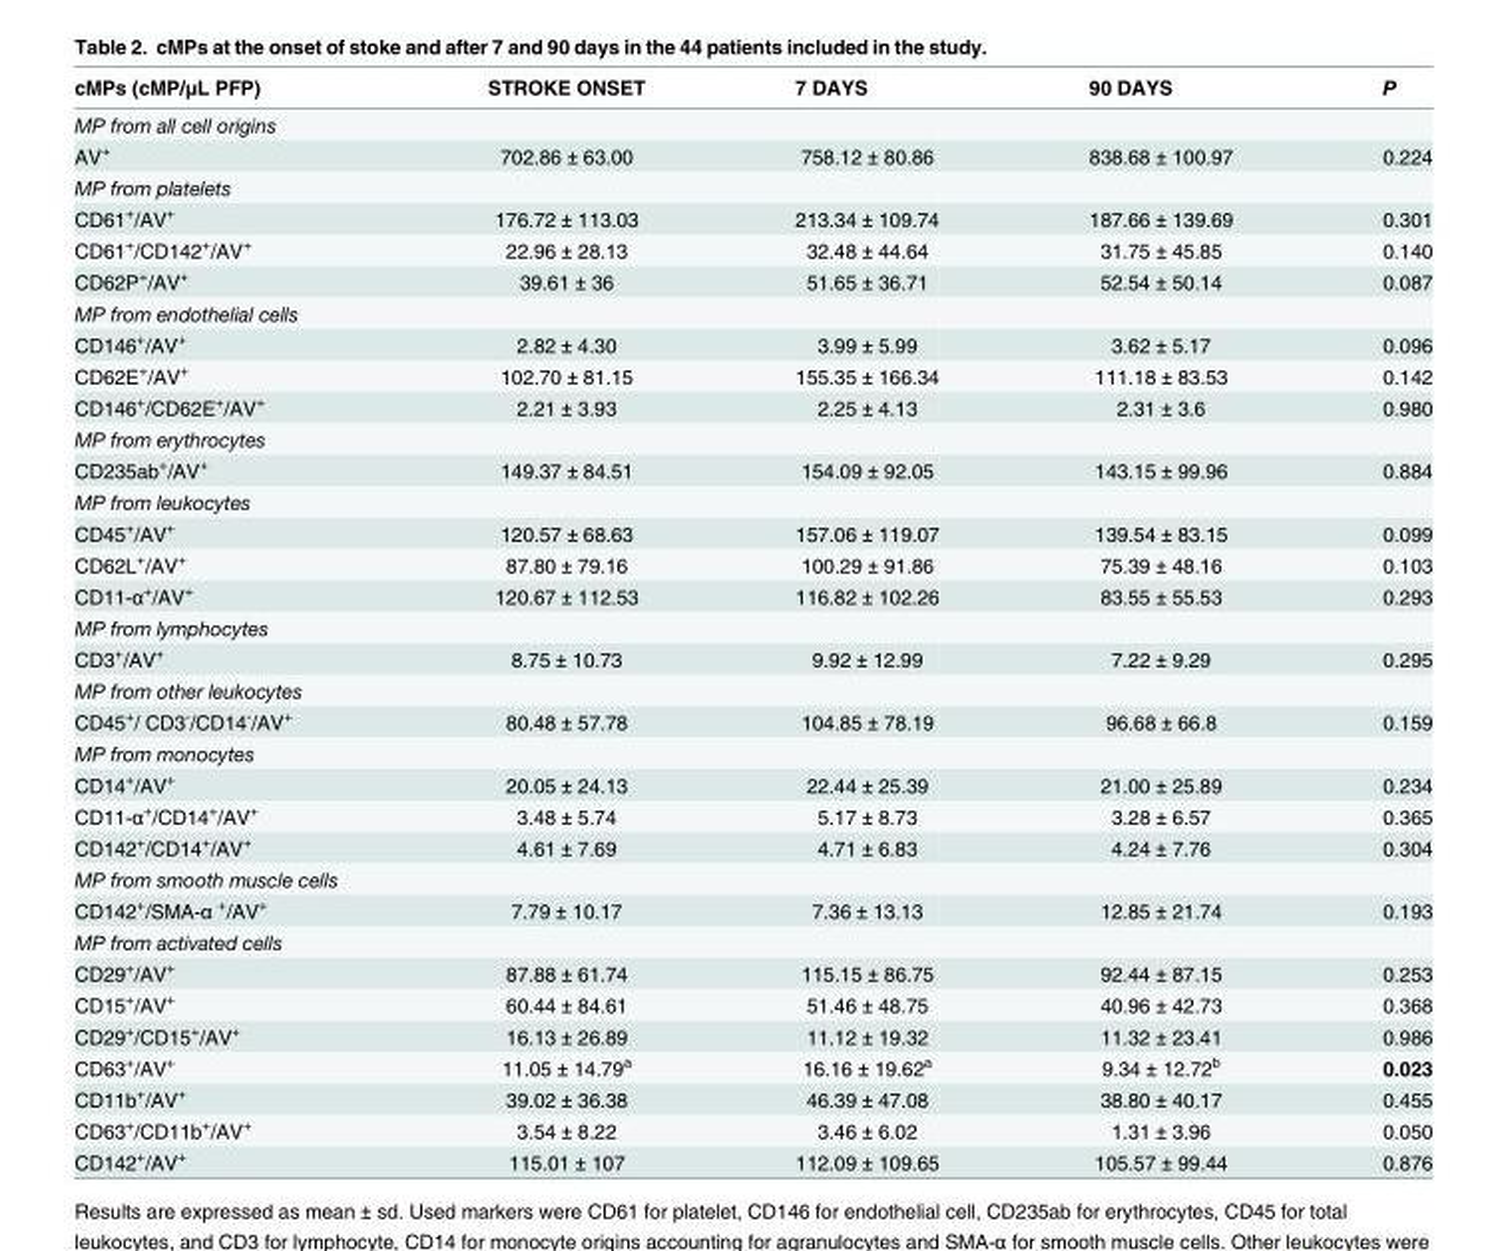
<table><thead><tr><td>cMPs (cMP/μL PFP)</td><td>STROKE ONSET</td><td>7 DAYS</td><td>90 DAYS</td><td>P</td></tr></thead><tbody><tr><td colspan="5">MP from all cell origins</td></tr><tr><td>AV<sup>+</sup></td><td>702.86 ± 63.00</td><td>758.12 ± 80.86</td><td>838.68 ± 100.97</td><td>0.224</td></tr><tr><td colspan="5">MP from platelets</td></tr><tr><td>CD61<sup>+</sup>/AV<sup>+</sup></td><td>176.72 ± 113.03</td><td>213.34 ± 109.74</td><td>187.66 ± 139.69</td><td>0.301</td></tr><tr><td>CD61<sup>+</sup>/CD142<sup>+</sup>/AV<sup>+</sup></td><td>22.96 ± 28.13</td><td>32.48 ± 44.64</td><td>31.75 ± 45.85</td><td>0.140</td></tr><tr><td>CD62P<sup>+</sup>/AV<sup>+</sup></td><td>39.61 ± 36</td><td>51.65 ± 36.71</td><td>52.54 ± 50.14</td><td>0.087</td></tr><tr><td colspan="5">MP from endothelial cells</td></tr><tr><td>CD146<sup>+</sup>/AV<sup>+</sup></td><td>2.82 ± 4.30</td><td>3.99 ± 5.99</td><td>3.62 ± 5.17</td><td>0.096</td></tr><tr><td>CD62E<sup>+</sup>/AV<sup>+</sup></td><td>102.70 ± 81.15</td><td>155.35 ± 166.34</td><td>111.18 ± 83.53</td><td>0.142</td></tr><tr><td>CD146<sup>+</sup>/CD62E<sup>+</sup>/AV<sup>+</sup></td><td>2.21 ± 3.93</td><td>2.25 ± 4.13</td><td>2.31 ± 3.6</td><td>0.980</td></tr><tr><td colspan="5">MP from erythrocytes</td></tr><tr><td>CD235ab<sup>+</sup>/AV<sup>+</sup></td><td>149.37 ± 84.51</td><td>154.09 ± 92.05</td><td>143.15 ± 99.96</td><td>0.884</td></tr><tr><td colspan="5">MP from leukocytes</td></tr><tr><td>CD45<sup>+</sup>/AV<sup>+</sup></td><td>120.57 ± 68.63</td><td>157.06 ± 119.07</td><td>139.54 ± 83.15</td><td>0.099</td></tr><tr><td>CD62L<sup>+</sup>/AV<sup>+</sup></td><td>87.80 ± 79.16</td><td>100.29 ± 91.86</td><td>75.39 ± 48.16</td><td>0.103</td></tr><tr><td>CD11-α<sup>+</sup>/AV<sup>+</sup></td><td>120.67 ± 112.53</td><td>116.82 ± 102.26</td><td>83.55 ± 55.53</td><td>0.293</td></tr><tr><td colspan="5">MP from lymphocytes</td></tr><tr><td>CD3<sup>+</sup>/AV<sup>+</sup></td><td>8.75 ± 10.73</td><td>9.92 ± 12.99</td><td>7.22 ± 9.29</td><td>0.295</td></tr><tr><td colspan="5">MP from other leukocytes</td></tr><tr><td>CD45<sup>+</sup>/ CD3<sup>-</sup>/CD14<sup>-</sup>/AV<sup>+</sup></td><td>80.48 ± 57.78</td><td>104.85 ± 78.19</td><td>96.68 ± 66.8</td><td>0.159</td></tr><tr><td colspan="5">MP from monocytes</td></tr><tr><td>CD14<sup>+</sup>/AV<sup>+</sup></td><td>20.05 ± 24.13</td><td>22.44 ± 25.39</td><td>21.00 ± 25.89</td><td>0.234</td></tr><tr><td>CD11-α<sup>+</sup>/CD14<sup>+</sup>/AV<sup>+</sup></td><td>3.48 ± 5.74</td><td>5.17 ± 8.73</td><td>3.28 ± 6.57</td><td>0.365</td></tr><tr><td>CD142<sup>+</sup>/CD14<sup>+</sup>/AV<sup>+</sup></td><td>4.61 ± 7.69</td><td>4.71 ± 6.83</td><td>4.24 ± 7.76</td><td>0.304</td></tr><tr><td colspan="5">MP from smooth muscle cells</td></tr><tr><td>CD142<sup>+</sup>/SMA-α <sup>+</sup>/AV<sup>+</sup></td><td>7.79 ± 10.17</td><td>7.36 ± 13.13</td><td>12.85 ± 21.74</td><td>0.193</td></tr><tr><td colspan="5">MP from activated cells</td></tr><tr><td>CD29<sup>+</sup>/AV<sup>+</sup></td><td>87.88 ± 61.74</td><td>115.15 ± 86.75</td><td>92.44 ± 87.15</td><td>0.253</td></tr><tr><td>CD15<sup>+</sup>/AV<sup>+</sup></td><td>60.44 ± 84.61</td><td>51.46 ± 48.75</td><td>40.96 ± 42.73</td><td>0.368</td></tr><tr><td>CD29<sup>+</sup>/CD15<sup>+</sup>/AV<sup>+</sup></td><td>16.13 ± 26.89</td><td>11.12 ± 19.32</td><td>11.32 ± 23.41</td><td>0.986</td></tr><tr><td>CD63<sup>+</sup>/AV<sup>+</sup></td><td>11.05 ± 14.79<sup>a</sup></td><td>16.16 ± 19.62<sup>a</sup></td><td>9.34 ± 12.72<sup>b</sup></td><td>0.023</td></tr><tr><td>CD11b<sup>+</sup>/AV<sup>+</sup></td><td>39.02 ± 36.38</td><td>46.39 ± 47.08</td><td>38.80 ± 40.17</td><td>0.455</td></tr><tr><td>CD63<sup>+</sup>/CD11b<sup>+</sup>/AV<sup>+</sup></td><td>3.54 ± 8.22</td><td>3.46 ± 6.02</td><td>1.31 ± 3.96</td><td>0.050</td></tr><tr><td>CD142<sup>+</sup>/AV<sup>+</sup></td><td>115.01 ± 107</td><td>112.09 ± 109.65</td><td>105.57 ± 99.44</td><td>0.876</td></tr></tbody></table>